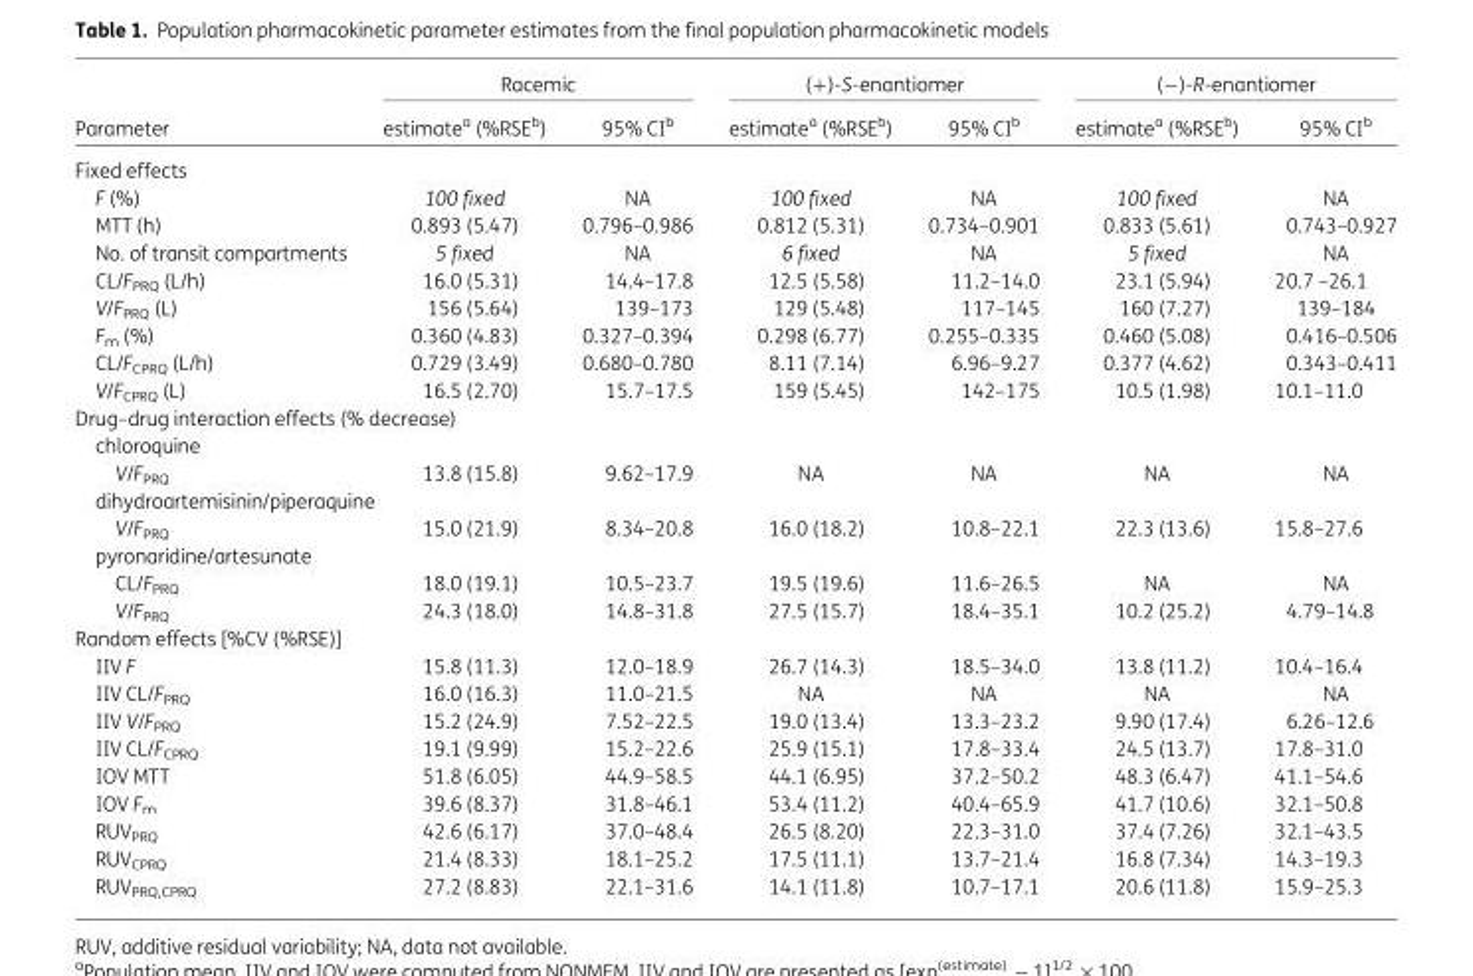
<table><thead><tr><td rowspan="2">Parameter</td><td colspan="2">Racemic</td><td colspan="2">(+)-S-enantiomer</td><td colspan="2">(−)-R-enantiomer</td></tr><tr><td>estimate<sup>a</sup> (%RSE<sup>b</sup>)</td><td>95% CI<sup>b</sup></td><td>estimate<sup>a</sup> (%RSE<sup>b</sup>)</td><td>95% CI<sup>b</sup></td><td>estimate<sup>a</sup> (%RSE<sup>b</sup>)</td><td>95% CI<sup>b</sup></td></tr></thead><tbody><tr><td colspan="7">Fixed effects</td></tr><tr><td>F (%)</td><td>100 fixed</td><td>NA</td><td>100 fixed</td><td>NA</td><td>100 fixed</td><td>NA</td></tr><tr><td>MTT (h)</td><td>0.893 (5.47)</td><td>0.796–0.986</td><td>0.812 (5.31)</td><td>0.734–0.901</td><td>0.833 (5.61)</td><td>0.743–0.927</td></tr><tr><td>No. of transit compartments</td><td>5 fixed</td><td>NA</td><td>6 fixed</td><td>NA</td><td>5 fixed</td><td>NA</td></tr><tr><td>CL/F<sub>PRQ</sub> (L/h)</td><td>16.0 (5.31)</td><td>14.4–17.8</td><td>12.5 (5.58)</td><td>11.2–14.0</td><td>23.1 (5.94)</td><td>20.7 –26.1</td></tr><tr><td>V/F<sub>PRQ</sub> (L)</td><td>156 (5.64)</td><td>139–173</td><td>129 (5.48)</td><td>117–145</td><td>160 (7.27)</td><td>139–184</td></tr><tr><td>F<sub>m</sub> (%)</td><td>0.360 (4.83)</td><td>0.327–0.394</td><td>0.298 (6.77)</td><td>0.255–0.335</td><td>0.460 (5.08)</td><td>0.416–0.506</td></tr><tr><td>CL/F<sub>CPRQ</sub> (L/h)</td><td>0.729 (3.49)</td><td>0.680–0.780</td><td>8.11 (7.14)</td><td>6.96–9.27</td><td>0.377 (4.62)</td><td>0.343–0.411</td></tr><tr><td>V/F<sub>CPRQ</sub> (L)</td><td>16.5 (2.70)</td><td>15.7–17.5</td><td>159 (5.45)</td><td>142–175</td><td>10.5 (1.98)</td><td>10.1–11.0</td></tr><tr><td colspan="7">Drug–drug interaction effects (% decrease)</td></tr><tr><td colspan="7">chloroquine</td></tr><tr><td>V/F<sub>PRQ</sub></td><td>13.8 (15.8)</td><td>9.62–17.9</td><td>NA</td><td>NA</td><td>NA</td><td>NA</td></tr><tr><td colspan="7">dihydroartemisinin/piperaquine</td></tr><tr><td>V/F<sub>PRQ</sub></td><td>15.0 (21.9)</td><td>8.34–20.8</td><td>16.0 (18.2)</td><td>10.8–22.1</td><td>22.3 (13.6)</td><td>15.8–27.6</td></tr><tr><td colspan="7">pyronaridine/artesunate</td></tr><tr><td>CL/F<sub>PRQ</sub></td><td>18.0 (19.1)</td><td>10.5–23.7</td><td>19.5 (19.6)</td><td>11.6–26.5</td><td>NA</td><td>NA</td></tr><tr><td>V/F<sub>PRQ</sub></td><td>24.3 (18.0)</td><td>14.8–31.8</td><td>27.5 (15.7)</td><td>18.4–35.1</td><td>10.2 (25.2)</td><td>4.79–14.8</td></tr><tr><td colspan="7">Random effects [%CV (%RSE)]</td></tr><tr><td>IIV F</td><td>15.8 (11.3)</td><td>12.0–18.9</td><td>26.7 (14.3)</td><td>18.5–34.0</td><td>13.8 (11.2)</td><td>10.4–16.4</td></tr><tr><td>IIV CL/F<sub>PRQ</sub></td><td>16.0 (16.3)</td><td>11.0–21.5</td><td>NA</td><td>NA</td><td>NA</td><td>NA</td></tr><tr><td>IIV V/F<sub>PRQ</sub></td><td>15.2 (24.9)</td><td>7.52–22.5</td><td>19.0 (13.4)</td><td>13.3–23.2</td><td>9.90 (17.4)</td><td>6.26–12.6</td></tr><tr><td>IIV CL/F<sub>CPRQ</sub></td><td>19.1 (9.99)</td><td>15.2–22.6</td><td>25.9 (15.1)</td><td>17.8–33.4</td><td>24.5 (13.7)</td><td>17.8–31.0</td></tr><tr><td>IOV MTT</td><td>51.8 (6.05)</td><td>44.9–58.5</td><td>44.1 (6.95)</td><td>37.2–50.2</td><td>48.3 (6.47)</td><td>41.1–54.6</td></tr><tr><td>IOV F<sub>m</sub></td><td>39.6 (8.37)</td><td>31.8–46.1</td><td>53.4 (11.2)</td><td>40.4–65.9</td><td>41.7 (10.6)</td><td>32.1–50.8</td></tr><tr><td>RUV<sub>PRQ</sub></td><td>42.6 (6.17)</td><td>37.0–48.4</td><td>26.5 (8.20)</td><td>22.3–31.0</td><td>37.4 (7.26)</td><td>32.1–43.5</td></tr><tr><td>RUV<sub>CPRQ</sub></td><td>21.4 (8.33)</td><td>18.1–25.2</td><td>17.5 (11.1)</td><td>13.7–21.4</td><td>16.8 (7.34)</td><td>14.3–19.3</td></tr><tr><td>RUV<sub>PRQ,CPRQ</sub></td><td>27.2 (8.83)</td><td>22.1–31.6</td><td>14.1 (11.8)</td><td>10.7–17.1</td><td>20.6 (11.8)</td><td>15.9–25.3</td></tr></tbody></table>